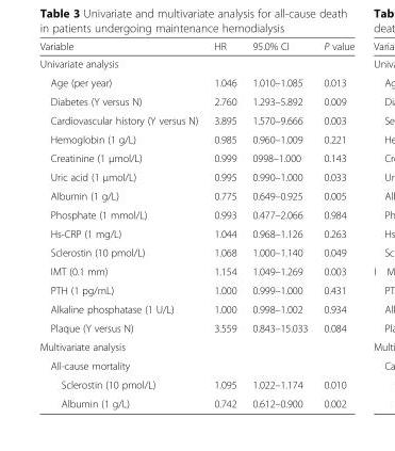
<table><thead><tr><td>Variable</td><td>HR</td><td>95.0% CI</td><td>P value</td></tr></thead><tbody><tr><td colspan="4">Univariate analysis</td></tr><tr><td>Age (per year)</td><td>1.046</td><td>1.010–1.085</td><td>0.013</td></tr><tr><td>Diabetes (Y versus N)</td><td>2.760</td><td>1.293–5.892</td><td>0.009</td></tr><tr><td>Cardiovascular history (Y versus N)</td><td>3.895</td><td>1.570–9.666</td><td>0.003</td></tr><tr><td>Hemoglobin (1 g/L)</td><td>0.985</td><td>0.960–1.009</td><td>0.221</td></tr><tr><td>Creatinine (1 μmol/L)</td><td>0.999</td><td>0998–1.000</td><td>0.143</td></tr><tr><td>Uric acid (1 μmol/L)</td><td>0.995</td><td>0.990–1.000</td><td>0.033</td></tr><tr><td>Albumin (1 g/L)</td><td>0.775</td><td>0.649–0.925</td><td>0.005</td></tr><tr><td>Phosphate (1 mmol/L)</td><td>0.993</td><td>0.477–2.066</td><td>0.984</td></tr><tr><td>Hs-CRP (1 mg/L)</td><td>1.044</td><td>0.968–1.126</td><td>0.263</td></tr><tr><td>Sclerostin (10 pmol/L)</td><td>1.068</td><td>1.000–1.140</td><td>0.049</td></tr><tr><td>IMT (0.1 mm)</td><td>1.154</td><td>1.049–1.269</td><td>0.003</td></tr><tr><td>PTH (1 pg/mL)</td><td>1.000</td><td>0.999–1.000</td><td>0.431</td></tr><tr><td>Alkaline phosphatase (1 U/L)</td><td>1.000</td><td>0.998–1.002</td><td>0.934</td></tr><tr><td>Plaque (Y versus N)</td><td>3.559</td><td>0.843–15.033</td><td>0.084</td></tr><tr><td colspan="4">Multivariate analysis</td></tr><tr><td colspan="4">All-cause mortality</td></tr><tr><td>Sclerostin (10 pmol/L)</td><td>1.095</td><td>1.022–1.174</td><td>0.010</td></tr><tr><td>Albumin (1 g/L)</td><td>0.742</td><td>0.612–0.900</td><td>0.002</td></tr></tbody></table>